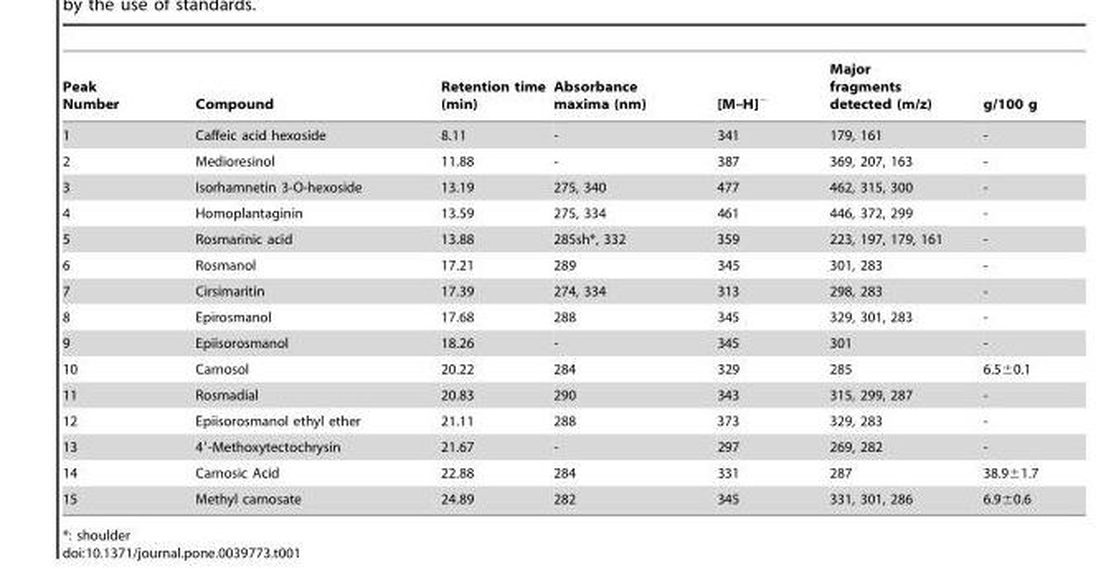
<table><thead><tr><td>Peak Number</td><td>Compound</td><td>Retention time (min)</td><td>Absorbance maxima (nm)</td><td>[M–H]<sup>−</sup></td><td>Major fragments detected (m/z)</td><td>g/100 g</td></tr></thead><tbody><tr><td>1</td><td>Caffeic acid hexoside</td><td>8.11</td><td>-</td><td>341</td><td>179, 161</td><td>-</td></tr><tr><td>2</td><td>Medioresinol</td><td>11.88</td><td>-</td><td>387</td><td>369, 207, 163</td><td>-</td></tr><tr><td>3</td><td>Isorhamnetin 3-O-hexoside</td><td>13.19</td><td>275, 340</td><td>477</td><td>462, 315, 300</td><td>-</td></tr><tr><td>4</td><td>Homoplantaginin</td><td>13.59</td><td>275, 334</td><td>461</td><td>446, 372, 299</td><td>-</td></tr><tr><td>5</td><td>Rosmarinic acid</td><td>13.88</td><td>285sh*, 332</td><td>359</td><td>223, 197, 179, 161</td><td>-</td></tr><tr><td>6</td><td>Rosmanol</td><td>17.21</td><td>289</td><td>345</td><td>301, 283</td><td>-</td></tr><tr><td>7</td><td>Cirsimaritin</td><td>17.39</td><td>274, 334</td><td>313</td><td>298, 283</td><td>-</td></tr><tr><td>8</td><td>Epirosmanol</td><td>17.68</td><td>288</td><td>345</td><td>329, 301, 283</td><td>-</td></tr><tr><td>9</td><td>Epiisorosmanol</td><td>18.26</td><td>-</td><td>345</td><td>301</td><td>-</td></tr><tr><td>10</td><td>Carnosol</td><td>20.22</td><td>284</td><td>329</td><td>285</td><td>6.5±0.1</td></tr><tr><td>11</td><td>Rosmadial</td><td>20.83</td><td>290</td><td>343</td><td>315, 299, 287</td><td>-</td></tr><tr><td>12</td><td>Epiisorosmanol ethyl ether</td><td>21.11</td><td>288</td><td>373</td><td>329, 283</td><td>-</td></tr><tr><td>13</td><td>4′-Methoxytectochrysin</td><td>21.67</td><td>-</td><td>297</td><td>269, 282</td><td>-</td></tr><tr><td>14</td><td>Carnosic Acid</td><td>22.88</td><td>284</td><td>331</td><td>287</td><td>38.9±1.7</td></tr><tr><td>15</td><td>Methyl carnosate</td><td>24.89</td><td>282</td><td>345</td><td>331, 301, 286</td><td>6.9±0.6</td></tr></tbody></table>